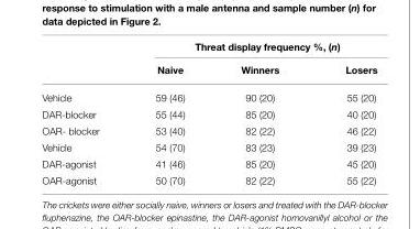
<table><thead><tr><td rowspan="2"></td><td colspan="3">Threat display frequency %, (n)</td></tr><tr><td>Naive</td><td>Winners</td><td>Losers</td></tr></thead><tbody><tr><td>Vehicle</td><td>59 (46)</td><td>90 (20)</td><td>55 (20)</td></tr><tr><td>DAR-blocker</td><td>55 (44)</td><td>85 (20)</td><td>40 (20)</td></tr><tr><td>OAR- blocker</td><td>53 (40)</td><td>82 (22)</td><td>46 (22)</td></tr><tr><td>Vehicle</td><td>54 (70)</td><td>83 (23)</td><td>39 (23)</td></tr><tr><td>DAR-agonist</td><td>41 (46)</td><td>85 (20)</td><td>45 (20)</td></tr><tr><td>OAR-agonist</td><td>50 (70)</td><td>82 (22)</td><td>55 (22)</td></tr></tbody></table>